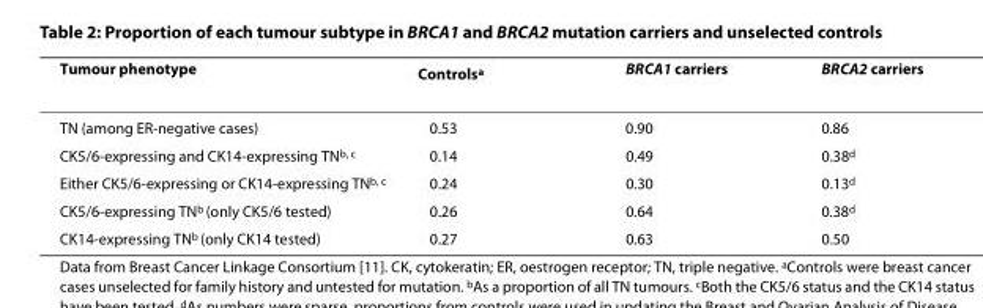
<table><thead><tr><td>Tumour phenotype</td><td>Controls<sup>a</sup></td><td>BRCA1 carriers</td><td>BRCA2 carriers</td></tr></thead><tbody><tr><td>TN (among ER-negative cases)</td><td>0.53</td><td>0.90</td><td>0.86</td></tr><tr><td>CK5/6-expressing and CK14-expressing TN<sup>b, c</sup></td><td>0.14</td><td>0.49</td><td>0.38<sup>d</sup></td></tr><tr><td>Either CK5/6-expressing or CK14-expressing TN<sup>b, c</sup></td><td>0.24</td><td>0.30</td><td>0.13<sup>d</sup></td></tr><tr><td>CK5/6-expressing TN<sup>b</sup> (only CK5/6 tested)</td><td>0.26</td><td>0.64</td><td>0.38<sup>d</sup></td></tr><tr><td>CK14-expressing TN<sup>b</sup> (only CK14 tested)</td><td>0.27</td><td>0.63</td><td>0.50</td></tr></tbody></table>